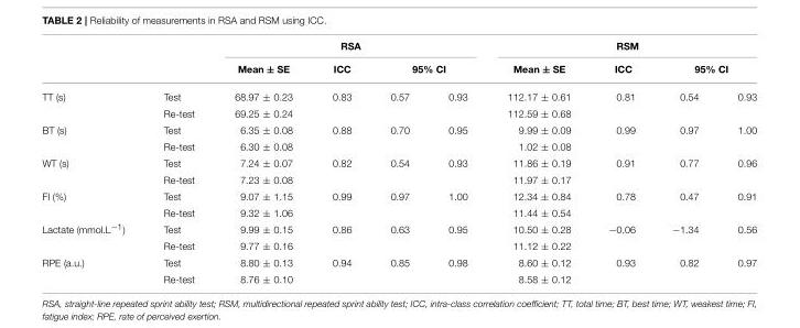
<table><thead><tr><td rowspan="3">TT (s)</td><td rowspan="3">Test</td><td colspan="4">RSA</td><td colspan="4">RSM</td></tr><tr><td rowspan="2">Mean ± SE 68.97 ± 0.23</td><td rowspan="2">ICC 0.83</td><td colspan="2">95% CI</td><td rowspan="2">Mean ± SE 112.17 ± 0.61</td><td rowspan="2">ICC 0.81</td><td colspan="2">95% CI</td></tr><tr><td>0.57</td><td>0.93</td><td>0.54</td><td>0.93</td></tr></thead><tbody><tr><td></td><td>Re-test</td><td>69.25 ± 0.24</td><td></td><td></td><td></td><td>112.59 ± 0.68</td><td></td><td></td><td></td></tr><tr><td rowspan="2">BT (s)</td><td>Test</td><td>6.35 ± 0.08</td><td>0.88</td><td>0.70</td><td>0.95</td><td>9.99 ± 0.09</td><td>0.99</td><td>0.97</td><td>1.00</td></tr><tr><td>Re-test</td><td>6.30 ± 0.08</td><td></td><td></td><td></td><td>1.02 ± 0.08</td><td></td><td></td><td></td></tr><tr><td rowspan="2">WT (s)</td><td>Test</td><td>7.24 ± 0.07</td><td>0.82</td><td>0.54</td><td>0.93</td><td>11.86 ± 0.19</td><td>0.91</td><td>0.77</td><td>0.96</td></tr><tr><td>Re-test</td><td>7.23 ± 0.08</td><td></td><td></td><td></td><td>11.97 ± 0.17</td><td></td><td></td><td></td></tr><tr><td rowspan="2">FI (%)</td><td>Test</td><td>9.07 ± 1.15</td><td>0.99</td><td>0.97</td><td>1.00</td><td>12.34 ± 0.84</td><td>0.78</td><td>0.47</td><td>0.91</td></tr><tr><td>Re-test</td><td>9.32 ± 1.06</td><td></td><td></td><td></td><td>11.44 ± 0.54</td><td></td><td></td><td></td></tr><tr><td rowspan="2">Lactate (mmol.L<sup>−1</sup>)</td><td>Test</td><td>9.99 ± 0.15</td><td>0.86</td><td>0.63</td><td>0.95</td><td>10.50 ± 0.28</td><td>−0.06</td><td>−1.34</td><td>0.56</td></tr><tr><td>Re-test</td><td>9.77 ± 0.16</td><td></td><td></td><td></td><td>11.12 ± 0.22</td><td></td><td></td><td></td></tr><tr><td rowspan="2">RPE (a.u.)</td><td>Test</td><td>8.80 ± 0.13</td><td>0.94</td><td>0.85</td><td>0.98</td><td>8.60 ± 0.12</td><td>0.93</td><td>0.82</td><td>0.97</td></tr><tr><td>Re-test</td><td>8.76 ± 0.10</td><td></td><td></td><td></td><td>8.58 ± 0.12</td><td></td><td></td><td></td></tr></tbody></table>